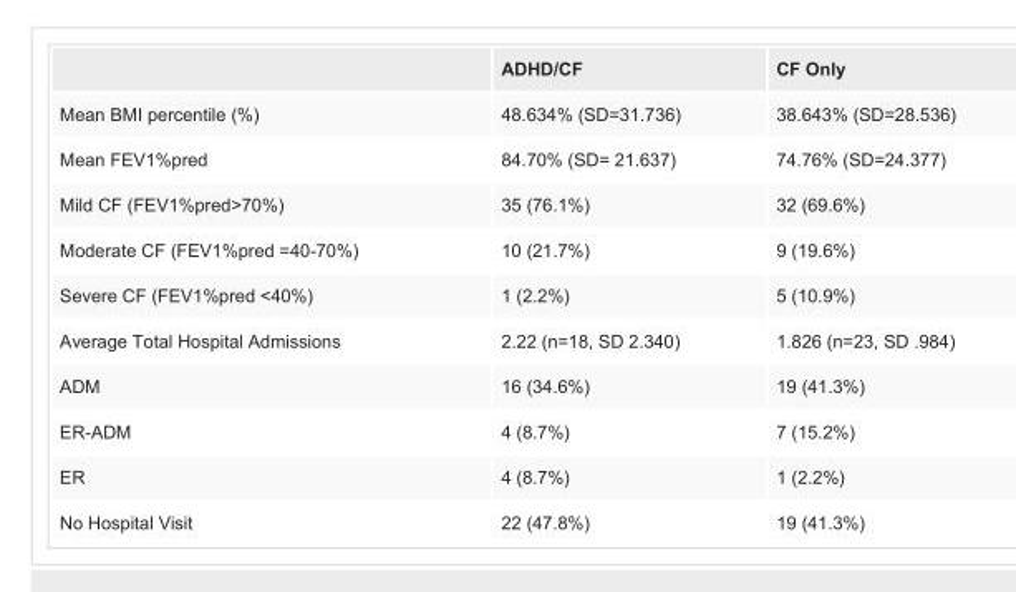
<table><thead><tr><td></td><td>ADHD/CF</td><td>CF Only</td></tr></thead><tbody><tr><td>Mean BMI percentile (%)</td><td>48.634% (SD=31.736)</td><td>38.643% (SD=28.536)</td></tr><tr><td>Mean FEV1%pred</td><td>84.70% (SD= 21.637)</td><td>74.76% (SD=24.377)</td></tr><tr><td>Mild CF (FEV1%pred&gt;70%)</td><td>35 (76.1%)</td><td>32 (69.6%)</td></tr><tr><td>Moderate CF (FEV1%pred =40-70%)</td><td>10 (21.7%)</td><td>9 (19.6%)</td></tr><tr><td>Severe CF (FEV1%pred &lt;40%)</td><td>1 (2.2%)</td><td>5 (10.9%)</td></tr><tr><td>Average Total Hospital Admissions</td><td>2.22 (n=18, SD 2.340)</td><td>1.826 (n=23, SD .984)</td></tr><tr><td>ADM</td><td>16 (34.6%)</td><td>19 (41.3%)</td></tr><tr><td>ER-ADM</td><td>4 (8.7%)</td><td>7 (15.2%)</td></tr><tr><td>ER</td><td>4 (8.7%)</td><td>1 (2.2%)</td></tr><tr><td>No Hospital Visit</td><td>22 (47.8%)</td><td>19 (41.3%)</td></tr></tbody></table>